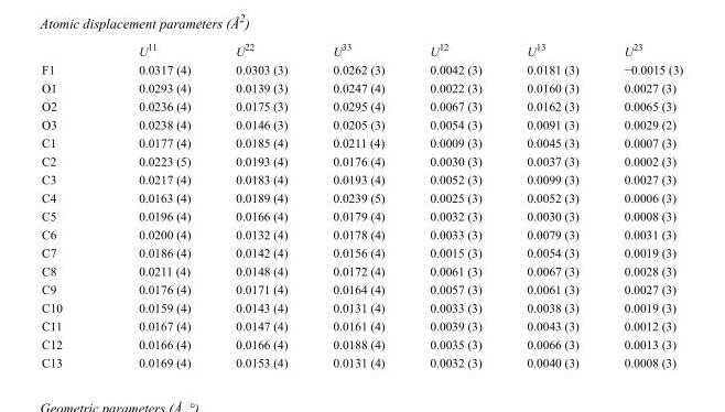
<table><thead><tr><td></td><td>U<sup>11</sup></td><td>U<sup>22</sup></td><td>U<sup>33</sup></td><td>U<sup>12</sup></td><td>U<sup>13</sup></td><td>U<sup>23</sup></td></tr></thead><tbody><tr><td>F1</td><td>0.0317 (4)</td><td>0.0303 (3)</td><td>0.0262 (3)</td><td>0.0042 (3)</td><td>0.0181 (3)</td><td>−0.0015 (3)</td></tr><tr><td>O1</td><td>0.0293 (4)</td><td>0.0139 (3)</td><td>0.0247 (4)</td><td>0.0022 (3)</td><td>0.0160 (3)</td><td>0.0027 (3)</td></tr><tr><td>O2</td><td>0.0236 (4)</td><td>0.0175 (3)</td><td>0.0295 (4)</td><td>0.0067 (3)</td><td>0.0162 (3)</td><td>0.0065 (3)</td></tr><tr><td>O3</td><td>0.0238 (4)</td><td>0.0146 (3)</td><td>0.0205 (3)</td><td>0.0054 (3)</td><td>0.0091 (3)</td><td>0.0029 (2)</td></tr><tr><td>C1</td><td>0.0177 (4)</td><td>0.0185 (4)</td><td>0.0211 (4)</td><td>0.0009 (3)</td><td>0.0045 (3)</td><td>0.0007 (3)</td></tr><tr><td>C2</td><td>0.0223 (5)</td><td>0.0193 (4)</td><td>0.0176 (4)</td><td>0.0030 (3)</td><td>0.0037 (3)</td><td>0.0002 (3)</td></tr><tr><td>C3</td><td>0.0217 (4)</td><td>0.0183 (4)</td><td>0.0193 (4)</td><td>0.0052 (3)</td><td>0.0099 (3)</td><td>0.0027 (3)</td></tr><tr><td>C4</td><td>0.0163 (4)</td><td>0.0189 (4)</td><td>0.0239 (5)</td><td>0.0025 (3)</td><td>0.0052 (3)</td><td>0.0006 (3)</td></tr><tr><td>C5</td><td>0.0196 (4)</td><td>0.0166 (4)</td><td>0.0179 (4)</td><td>0.0032 (3)</td><td>0.0030 (3)</td><td>0.0008 (3)</td></tr><tr><td>C6</td><td>0.0200 (4)</td><td>0.0132 (4)</td><td>0.0178 (4)</td><td>0.0033 (3)</td><td>0.0079 (3)</td><td>0.0031 (3)</td></tr><tr><td>C7</td><td>0.0186 (4)</td><td>0.0142 (4)</td><td>0.0156 (4)</td><td>0.0015 (3)</td><td>0.0054 (3)</td><td>0.0019 (3)</td></tr><tr><td>C8</td><td>0.0211 (4)</td><td>0.0148 (4)</td><td>0.0172 (4)</td><td>0.0061 (3)</td><td>0.0067 (3)</td><td>0.0028 (3)</td></tr><tr><td>C9</td><td>0.0176 (4)</td><td>0.0171 (4)</td><td>0.0164 (4)</td><td>0.0057 (3)</td><td>0.0061 (3)</td><td>0.0027 (3)</td></tr><tr><td>C10</td><td>0.0159 (4)</td><td>0.0143 (4)</td><td>0.0131 (4)</td><td>0.0033 (3)</td><td>0.0038 (3)</td><td>0.0019 (3)</td></tr><tr><td>C11</td><td>0.0167 (4)</td><td>0.0147 (4)</td><td>0.0161 (4)</td><td>0.0039 (3)</td><td>0.0043 (3)</td><td>0.0012 (3)</td></tr><tr><td>C12</td><td>0.0166 (4)</td><td>0.0166 (4)</td><td>0.0188 (4)</td><td>0.0035 (3)</td><td>0.0066 (3)</td><td>0.0013 (3)</td></tr><tr><td>C13</td><td>0.0169 (4)</td><td>0.0153 (4)</td><td>0.0131 (4)</td><td>0.0032 (3)</td><td>0.0040 (3)</td><td>0.0008 (3)</td></tr></tbody></table>